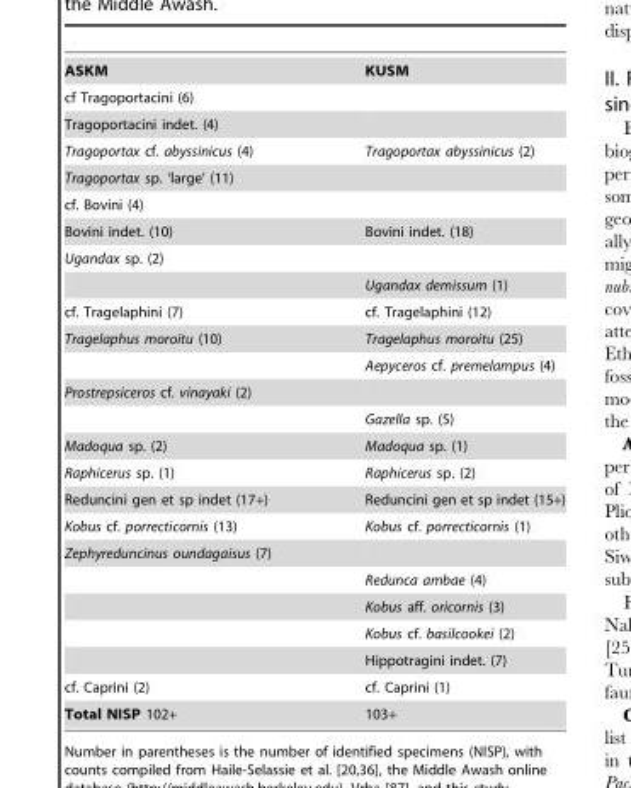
<table><tbody><tr><td>ASKM</td><td>KUSM</td></tr><tr><td colspan="2">cf Tragoportacini (6)</td></tr><tr><td colspan="2">Tragoportacini indet. (4)</td></tr><tr><td>Tragoportax cf. abyssinicus (4)</td><td>Tragoportax abyssinicus (2)</td></tr><tr><td colspan="2">Tragoportax sp. ‘large’ (11)</td></tr><tr><td colspan="2">cf. Bovini (4)</td></tr><tr><td>Bovini indet. (10)</td><td>Bovini indet. (18)</td></tr><tr><td colspan="2">Ugandax sp. (2)</td></tr><tr><td></td><td>Ugandax demissum (1)</td></tr><tr><td>cf. Tragelaphini (7)</td><td>cf. Tragelaphini (12)</td></tr><tr><td rowspan="2">Tragelaphus moroitu (10)</td><td>Tragelaphus moroitu (25)</td></tr><tr><td>Aepyceros cf. premelampus (4)</td></tr><tr><td colspan="2">Prostrepsiceros cf. vinayaki (2)</td></tr><tr><td></td><td>Gazella sp. (5)</td></tr><tr><td>Madoqua sp. (2)</td><td>Madoqua sp. (1)</td></tr><tr><td>Raphicerus sp. (1)</td><td>Raphicerus sp. (2)</td></tr><tr><td>Reduncini gen et sp indet (17+)</td><td>Reduncini gen et sp indet (15+)</td></tr><tr><td>Kobus cf. porrecticornis (13)</td><td>Kobus cf. porrecticornis (1)</td></tr><tr><td colspan="2">Zephyreduncinus oundagaisus (7)</td></tr><tr><td></td><td>Redunca ambae (4)</td></tr><tr><td></td><td>Kobus aff. oricornis (3)</td></tr><tr><td></td><td>Kobus cf. basilcookei (2)</td></tr><tr><td></td><td>Hippotragini indet. (7)</td></tr><tr><td>cf. Caprini (2)</td><td>cf. Caprini (1)</td></tr><tr><td>Total NISP 102+</td><td>103+</td></tr></tbody></table>